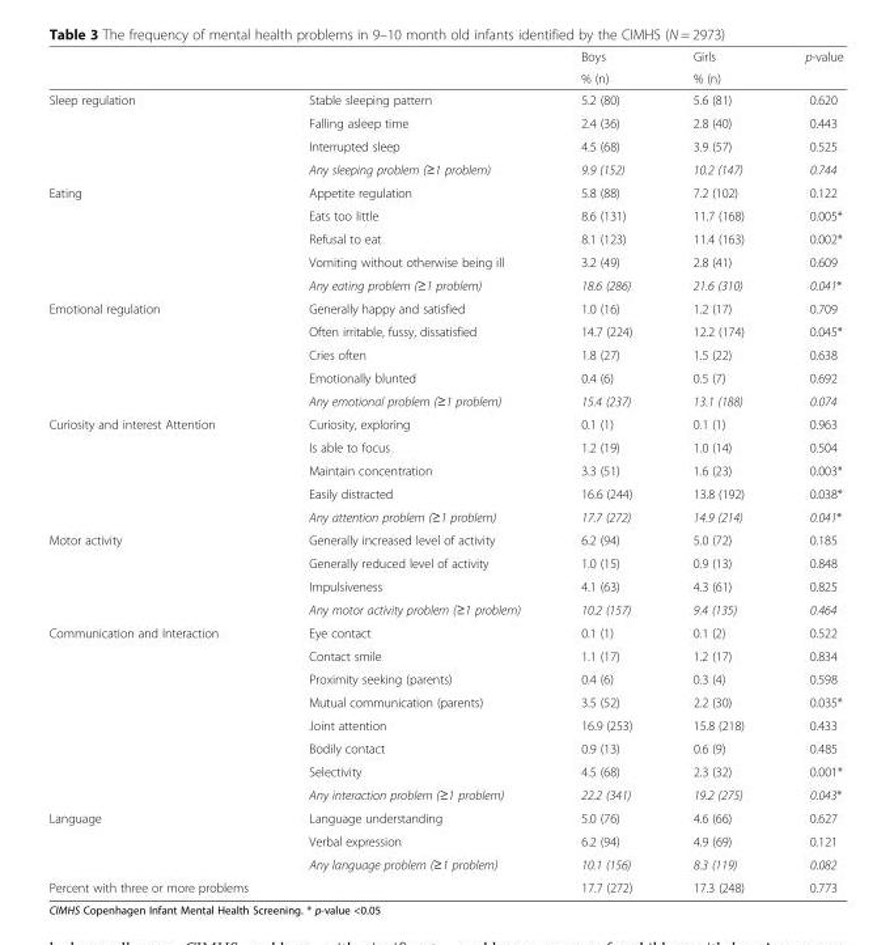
<table><thead><tr><td rowspan="2"></td><td rowspan="2"></td><td rowspan="2">Boys % (n)</td><td rowspan="2">Girls % (n)</td><td rowspan="2">p-value</td></tr><tr></tr></thead><tbody><tr><td rowspan="4">Sleep regulation</td><td>Stable sleeping pattern</td><td>5.2 (80)</td><td>5.6 (81)</td><td>0.620</td></tr><tr><td>Falling asleep time</td><td>2.4 (36)</td><td>2.8 (40)</td><td>0.443</td></tr><tr><td>Interrupted sleep</td><td>4.5 (68)</td><td>3.9 (57)</td><td>0.525</td></tr><tr><td>Any sleeping problem (≥1 problem)</td><td>9.9 (152)</td><td>10.2 (147)</td><td>0.744</td></tr><tr><td rowspan="5">Eating</td><td>Appetite regulation</td><td>5.8 (88)</td><td>7.2 (102)</td><td>0.122</td></tr><tr><td>Eats too little</td><td>8.6 (131)</td><td>11.7 (168)</td><td>0.005*</td></tr><tr><td>Refusal to eat</td><td>8.1 (123)</td><td>11.4 (163)</td><td>0.002*</td></tr><tr><td>Vomiting without otherwise being ill</td><td>3.2 (49)</td><td>2.8 (41)</td><td>0.609</td></tr><tr><td>Any eating problem (≥1 problem)</td><td>18.6 (286)</td><td>21.6 (310)</td><td>0.041*</td></tr><tr><td rowspan="5">Emotional regulation</td><td>Generally happy and satisfied</td><td>1.0 (16)</td><td>1.2 (17)</td><td>0.709</td></tr><tr><td>Often irritable, fussy, dissatisfied</td><td>14.7 (224)</td><td>12.2 (174)</td><td>0.045*</td></tr><tr><td>Cries often</td><td>1.8 (27)</td><td>1.5 (22)</td><td>0.638</td></tr><tr><td>Emotionally blunted</td><td>0.4 (6)</td><td>0.5 (7)</td><td>0.692</td></tr><tr><td>Any emotional problem (≥1 problem)</td><td>15.4 (237)</td><td>13.1 (188)</td><td>0.074</td></tr><tr><td rowspan="5">Curiosity and interest Attention</td><td>Curiosity, exploring</td><td>0.1 (1)</td><td>0.1 (1)</td><td>0.963</td></tr><tr><td>Is able to focus</td><td>1.2 (19)</td><td>1.0 (14)</td><td>0.504</td></tr><tr><td>Maintain concentration</td><td>3.3 (51)</td><td>1.6 (23)</td><td>0.003*</td></tr><tr><td>Easily distracted</td><td>16.6 (244)</td><td>13.8 (192)</td><td>0.038*</td></tr><tr><td>Any attention problem (≥1 problem)</td><td>17.7 (272)</td><td>14.9 (214)</td><td>0.041*</td></tr><tr><td rowspan="4">Motor activity</td><td>Generally increased level of activity</td><td>6.2 (94)</td><td>5.0 (72)</td><td>0.185</td></tr><tr><td>Generally reduced level of activity</td><td>1.0 (15)</td><td>0.9 (13)</td><td>0.848</td></tr><tr><td>Impulsiveness</td><td>4.1 (63)</td><td>4.3 (61)</td><td>0.825</td></tr><tr><td>Any motor activity problem (≥1 problem)</td><td>10.2 (157)</td><td>9.4 (135)</td><td>0.464</td></tr><tr><td rowspan="8">Communication and Interaction</td><td>Eye contact</td><td>0.1 (1)</td><td>0.1 (2)</td><td>0.522</td></tr><tr><td>Contact smile</td><td>1.1 (17)</td><td>1.2 (17)</td><td>0.834</td></tr><tr><td>Proximity seeking (parents)</td><td>0.4 (6)</td><td>0.3 (4)</td><td>0.598</td></tr><tr><td>Mutual communication (parents)</td><td>3.5 (52)</td><td>2.2 (30)</td><td>0.035*</td></tr><tr><td>Joint attention</td><td>16.9 (253)</td><td>15.8 (218)</td><td>0.433</td></tr><tr><td>Bodily contact</td><td>0.9 (13)</td><td>0.6 (9)</td><td>0.485</td></tr><tr><td>Selectivity</td><td>4.5 (68)</td><td>2.3 (32)</td><td>0.001*</td></tr><tr><td>Any interaction problem (≥1 problem)</td><td>22.2 (341)</td><td>19.2 (275)</td><td>0.043*</td></tr><tr><td rowspan="3">Language</td><td>Language understanding</td><td>5.0 (76)</td><td>4.6 (66)</td><td>0.627</td></tr><tr><td>Verbal expression</td><td>6.2 (94)</td><td>4.9 (69)</td><td>0.121</td></tr><tr><td>Any language problem (≥1 problem)</td><td>10.1 (156)</td><td>8.3 (119)</td><td>0.082</td></tr><tr><td>Percent with three or more problems</td><td></td><td>17.7 (272)</td><td>17.3 (248)</td><td>0.773</td></tr></tbody></table>